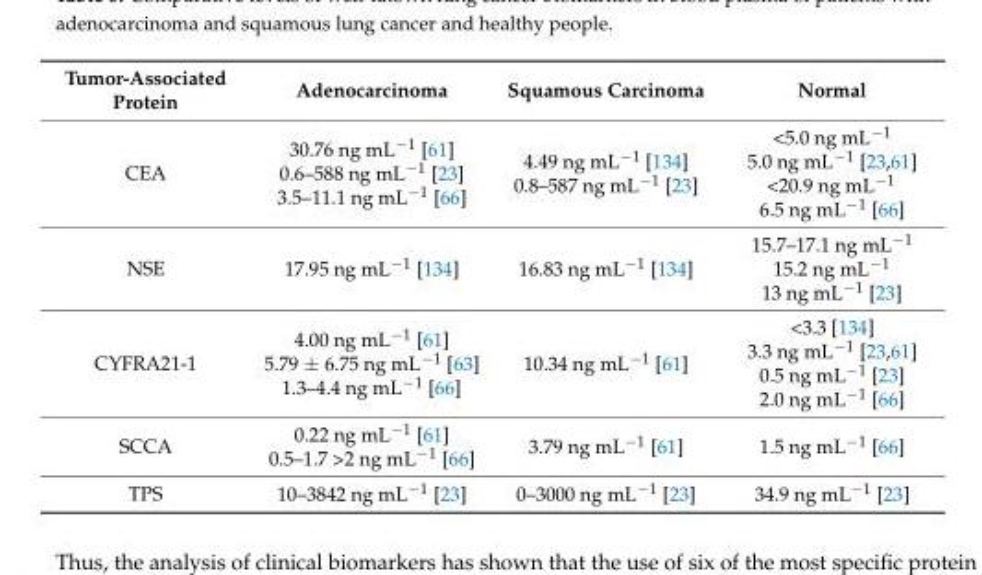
<table><thead><tr><td>Tumor-Associated Protein</td><td>Adenocarcinoma</td><td>Squamous Carcinoma</td><td>Normal</td></tr></thead><tbody><tr><td>CEA</td><td>30.76 ng mL<sup>−1</sup> [61] 0.6–588 ng mL<sup>−1</sup> [23] 3.5–11.1 ng mL<sup>−1</sup> [66]</td><td>4.49 ng mL<sup>−1</sup> [134] 0.8–587 ng mL<sup>−1</sup> [23]</td><td>&lt;5.0 ng mL<sup>−1</sup> 5.0 ng mL<sup>−1</sup> [23,61] &lt;20.9 ng mL<sup>−1</sup> 6.5 ng mL<sup>−1</sup> [66]</td></tr><tr><td>NSE</td><td>17.95 ng mL<sup>−1</sup> [134]</td><td>16.83 ng mL<sup>−1</sup> [134]</td><td>15.7–17.1 ng mL<sup>−1</sup> 15.2 ng mL<sup>−1</sup> 13 ng mL<sup>−1</sup> [23]</td></tr><tr><td>CYFRA21-1</td><td>4.00 ng mL<sup>−1</sup> [61] 5.79 ± 6.75 ng mL<sup>−1</sup> [63] 1.3–4.4 ng mL<sup>−1</sup> [66]</td><td>10.34 ng mL<sup>−1</sup> [61]</td><td>&lt;3.3 [134] 3.3 ng mL<sup>−1</sup> [23,61] 0.5 ng mL<sup>−1</sup> [23] 2.0 ng mL<sup>−1</sup> [66]</td></tr><tr><td>SCCA</td><td>0.22 ng mL<sup>−1</sup> [61] 0.5–1.7 &gt;2 ng mL<sup>−1</sup> [66]</td><td>3.79 ng mL<sup>−1</sup> [61]</td><td>1.5 ng mL<sup>−1</sup> [66]</td></tr><tr><td>TPS</td><td>10–3842 ng mL<sup>−1</sup> [23]</td><td>0–3000 ng mL<sup>−1</sup> [23]</td><td>34.9 ng mL<sup>−1</sup> [23]</td></tr></tbody></table>